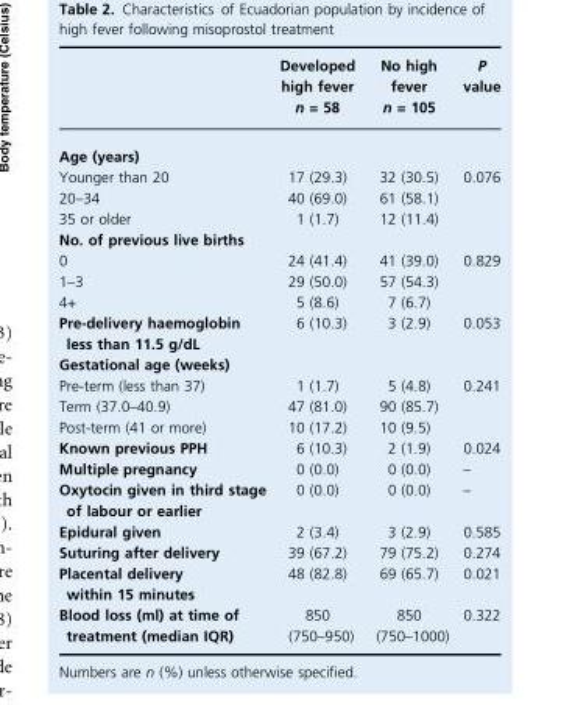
<table><thead><tr><td></td><td>Developed high fever n = 58</td><td>No high fever n = 105</td><td>P value</td></tr></thead><tbody><tr><td colspan="4">Age (years)</td></tr><tr><td>Younger than 20</td><td>17 (29.3)</td><td>32 (30.5)</td><td>0.076</td></tr><tr><td>20–34</td><td>40 (69.0)</td><td>61 (58.1)</td><td></td></tr><tr><td>35 or older</td><td>1 (1.7)</td><td>12 (11.4)</td><td></td></tr><tr><td colspan="4">No. of previous live births</td></tr><tr><td>0</td><td>24 (41.4)</td><td>41 (39.0)</td><td>0.829</td></tr><tr><td>1–3</td><td>29 (50.0)</td><td>57 (54.3)</td><td></td></tr><tr><td>4+</td><td>5 (8.6)</td><td>7 (6.7)</td><td></td></tr><tr><td>Pre-delivery haemoglobin less than 11.5 g/dL</td><td>6 (10.3)</td><td>3 (2.9)</td><td>0.053</td></tr><tr><td colspan="4">Gestational age (weeks)</td></tr><tr><td>Pre-term (less than 37)</td><td>1 (1.7)</td><td>5 (4.8)</td><td>0.241</td></tr><tr><td>Term (37.0–40.9)</td><td>47 (81.0)</td><td>90 (85.7)</td><td></td></tr><tr><td>Post-term (41 or more)</td><td>10 (17.2)</td><td>10 (9.5)</td><td></td></tr><tr><td>Known previous PPH</td><td>6 (10.3)</td><td>2 (1.9)</td><td>0.024</td></tr><tr><td>Multiple pregnancy</td><td>0 (0.0)</td><td>0 (0.0)</td><td>–</td></tr><tr><td>Oxytocin given in third stage of labour or earlier</td><td>0 (0.0)</td><td>0 (0.0)</td><td>–</td></tr><tr><td>Epidural given</td><td>2 (3.4)</td><td>3 (2.9)</td><td>0.585</td></tr><tr><td>Suturing after delivery</td><td>39 (67.2)</td><td>79 (75.2)</td><td>0.274</td></tr><tr><td>Placental delivery within 15 minutes</td><td>48 (82.8)</td><td>69 (65.7)</td><td>0.021</td></tr><tr><td>Blood loss (ml) at time of treatment (median IQR)</td><td>850 (750–950)</td><td>850 (750–1000)</td><td>0.322</td></tr></tbody></table>